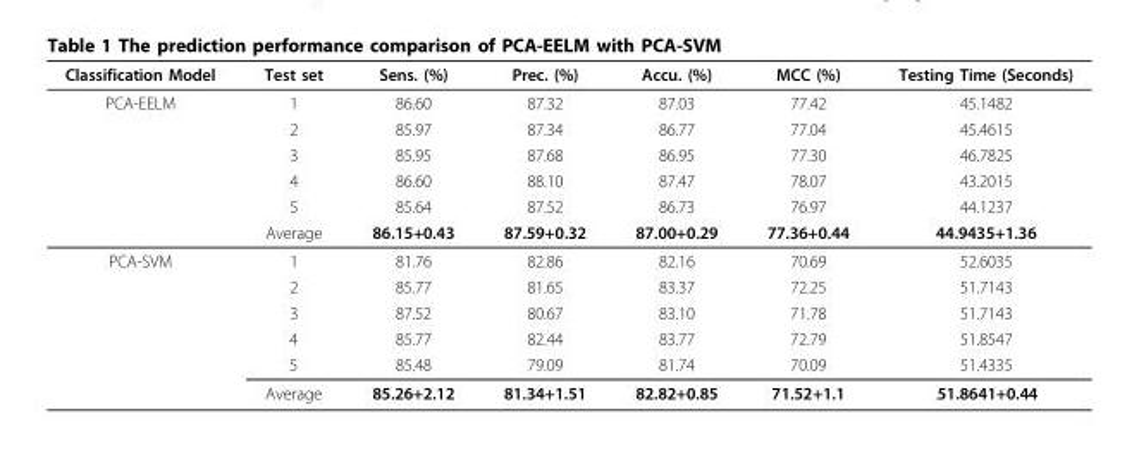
<table><thead><tr><td>Classification Model</td><td>Test set</td><td>Sens. (%)</td><td>Prec. (%)</td><td>Accu. (%)</td><td>MCC (%)</td><td>Testing Time (Seconds)</td></tr></thead><tbody><tr><td rowspan="6">PCA-EELM</td><td>1</td><td>86.60</td><td>87.32</td><td>87.03</td><td>77.42</td><td>45.1482</td></tr><tr><td>2</td><td>85.97</td><td>87.34</td><td>86.77</td><td>77.04</td><td>45.4615</td></tr><tr><td>3</td><td>85.95</td><td>87.68</td><td>86.95</td><td>77.30</td><td>46.7825</td></tr><tr><td>4</td><td>86.60</td><td>88.10</td><td>87.47</td><td>78.07</td><td>43.2015</td></tr><tr><td>5</td><td>85.64</td><td>87.52</td><td>86.73</td><td>76.97</td><td>44.1237</td></tr><tr><td>Average</td><td>86.15+0.43</td><td>87.59+0.32</td><td>87.00+0.29</td><td>77.36+0.44</td><td>44.9435+1.36</td></tr><tr><td rowspan="6">PCA-SVM</td><td>1</td><td>81.76</td><td>82.86</td><td>82.16</td><td>70.69</td><td>52.6035</td></tr><tr><td>2</td><td>85.77</td><td>81.65</td><td>83.37</td><td>72.25</td><td>51.7143</td></tr><tr><td>3</td><td>87.52</td><td>80.67</td><td>83.10</td><td>71.78</td><td>51.7143</td></tr><tr><td>4</td><td>85.77</td><td>82.44</td><td>83.77</td><td>72.79</td><td>51.8547</td></tr><tr><td>5</td><td>85.48</td><td>79.09</td><td>81.74</td><td>70.09</td><td>51.4335</td></tr><tr><td>Average</td><td>85.26+2.12</td><td>81.34+1.51</td><td>82.82+0.85</td><td>71.52+1.1</td><td>.51.8641+0.44</td></tr></tbody></table>